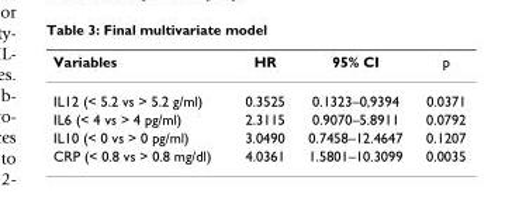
<table><thead><tr><td>Variables</td><td>HR</td><td>95% CI</td><td>p</td></tr></thead><tbody><tr><td>IL12 (&lt; 5.2 vs &gt; 5.2 g/ml)</td><td>0.3525</td><td>0.1323–0,9394</td><td>0.0371</td></tr><tr><td>IL6 (&lt; 4 vs &gt; 4 pg/ml)</td><td>2.3115</td><td>0.9070–5.8911</td><td>0.0792</td></tr><tr><td>IL10 (&lt; 0 vs &gt; 0 pg/ml)</td><td>3.0490</td><td>0.7458–12.4647</td><td>0.1207</td></tr><tr><td>CRP (&lt; 0.8 vs &gt; 0.8 mg/dl)</td><td>4.0361</td><td>1.5801–10.3099</td><td>0.0035</td></tr></tbody></table>